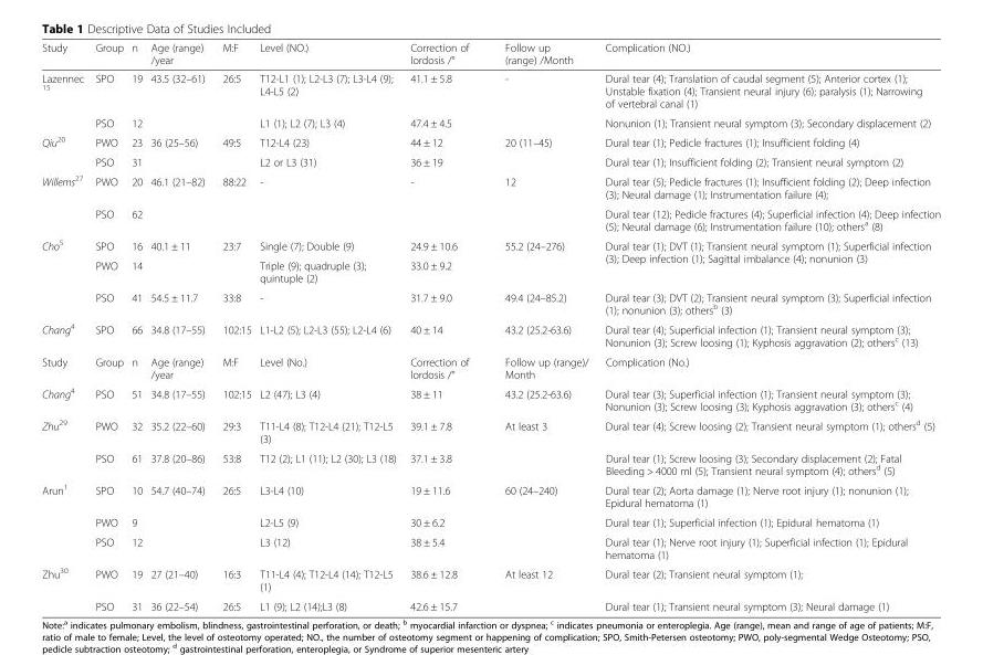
<table><thead><tr><td>Study</td><td>Group</td><td>n</td><td>Age (range) /year</td><td>M:F</td><td>Level (NO.)</td><td>Correction of lordosis /°</td><td>Follow up (range) /Month</td><td>Complication (NO.)</td></tr></thead><tbody><tr><td rowspan="2">Lazennec <sup>15</sup></td><td>SPO</td><td>19</td><td rowspan="2">43.5 (32–61)</td><td rowspan="2">26:5</td><td>T12-L1 (1); L2-L3 (7); L3-L4 (9); L4-L5 (2)</td><td>41.1 ± 5.8</td><td rowspan="2">-</td><td>Dural tear (4); Translation of caudal segment (5); Anterior cortex (1); Unstable fixation (4); Transient neural injury (6); paralysis (1); Narrowing of vertebral canal (1)</td></tr><tr><td>PSO</td><td>12</td><td>L1 (1); L2 (7); L3 (4)</td><td>47.4 ± 4.5</td><td>Nonunion (1); Transient neural symptom (3); Secondary displacement (2)</td></tr><tr><td rowspan="2">Qiu<sup>20</sup></td><td>PWO</td><td>23</td><td rowspan="2">36 (25–56)</td><td rowspan="2">49:5</td><td>T12-L4 (23)</td><td>44 ± 12</td><td rowspan="2">20 (11–45)</td><td>Dural tear (1); Pedicle fractures (1); Insufficient folding (4)</td></tr><tr><td>PSO</td><td>31</td><td>L2 or L3 (31)</td><td>36 ± 19</td><td>Dural tear (1); Insufficient folding (2); Transient neural symptom (2)</td></tr><tr><td rowspan="2">Willems<sup>27</sup></td><td>PWO</td><td>20</td><td rowspan="2">46.1 (21–82)</td><td rowspan="2">88:22</td><td rowspan="2">-</td><td rowspan="2">-</td><td rowspan="2">12</td><td>Dural tear (5); Pedicle fractures (1); Insufficient folding (2); Deep infection (3); Neural damage (1); Instrumentation failure (4);</td></tr><tr><td>PSO</td><td>62</td><td>Dural tear (12); Pedicle fractures (4); Superficial infection (4); Deep infection (5); Neural damage (6); Instrumentation failure (10); others<sup>a</sup> (8)</td></tr><tr><td rowspan="3">Cho<sup>5</sup></td><td>SPO</td><td>16</td><td rowspan="2">40.1 ± 11</td><td rowspan="2">23:7</td><td>Single (7); Double (9)</td><td>24.9 ± 10.6</td><td rowspan="2">55.2 (24–276)</td><td rowspan="2">Dural tear (1); DVT (1); Transient neural symptom (1); Superficial infection (3); Deep infection (1); Sagittal imbalance (4); nonunion (3)</td></tr><tr><td>PWO</td><td>14</td><td>Triple (9); quadruple (3); quintuple (2)</td><td>33.0 ± 9.2</td></tr><tr><td>PSO</td><td>41</td><td>54.5 ± 11.7</td><td>33:8</td><td>-</td><td>31.7 ± 9.0</td><td>49.4 (24–85.2)</td><td>Dural tear (3); DVT (2); Transient neural symptom (3); Superficial infection (1); nonunion (3); others<sup>b</sup> (3)</td></tr><tr><td>Chang<sup>4</sup></td><td>SPO</td><td>66</td><td>34.8 (17–55)</td><td>102:15</td><td>L1-L2 (5); L2-L3 (55); L2-L4 (6)</td><td>40 ± 14</td><td>43.2 (25.2-63.6)</td><td>Dural tear (4); Superficial infection (1); Transient neural symptom (3); Nonunion (3); Screw loosing (1); Kyphosis aggravation (2); others<sup>c</sup> (13)</td></tr><tr><td>Study</td><td>Group</td><td>n</td><td>Age (range) /year</td><td>M:F</td><td>Level (No.)</td><td>Correction of lordosis /°</td><td>Follow up (range)/ Month</td><td>Complication (No.)</td></tr><tr><td>Chang<sup>4</sup></td><td>PSO</td><td>51</td><td>34.8 (17–55)</td><td>102:15</td><td>L2 (47); L3 (4)</td><td>38 ± 11</td><td>43.2 (25.2-63.6)</td><td>Dural tear (3); Superficial infection (1); Transient neural symptom (3); Nonunion (3); Screw loosing (3); Kyphosis aggravation (3); others<sup>c</sup> (4)</td></tr><tr><td rowspan="2">Zhu<sup>29</sup></td><td>PWO</td><td>32</td><td>35.2 (22–60)</td><td>29:3</td><td>T11-L4 (8); T12-L4 (21); T12-L5 (3)</td><td>39.1 ± 7.8</td><td rowspan="2">At least 3</td><td>Dural tear (4); Screw loosing (2); Transient neural symptom (1); others<sup>d</sup> (5)</td></tr><tr><td>PSO</td><td>61</td><td>37.8 (20–86)</td><td>53:8</td><td>T12 (2); L1 (11); L2 (30); L3 (18)</td><td>37.1 ± 3.8</td><td>Dural tear (1); Screw loosing (3); Secondary displacement (2); Fatal Bleeding &gt; 4000 ml (5); Transient neural symptom (4); others<sup>d</sup> (5)</td></tr><tr><td rowspan="3">Arun<sup>1</sup></td><td>SPO</td><td>10</td><td rowspan="3">54.7 (40–74)</td><td rowspan="3">26:5</td><td>L3-L4 (10)</td><td>19 ± 11.6</td><td rowspan="3">60 (24–240)</td><td>Dural tear (2); Aorta damage (1); Nerve root injury (1); nonunion (1); Epidural hematoma (1)</td></tr><tr><td>PWO</td><td>9</td><td>L2-L5 (9)</td><td>30 ± 6.2</td><td>Dural tear (1); Superficial infection (1); Epidural hematoma (1)</td></tr><tr><td>PSO</td><td>12</td><td>L3 (12)</td><td>38 ± 5.4</td><td>Dural tear (1); Nerve root injury (1); Superficial infection (1); Epidural hematoma (1)</td></tr><tr><td rowspan="2">Zhu<sup>30</sup></td><td>PWO</td><td>19</td><td>27 (21–40)</td><td>16:3</td><td>T11-L4 (4); T12-L4 (14); T12-L5 (1)</td><td>38.6 ± 12.8</td><td rowspan="2">At least 12</td><td>Dural tear (2); Transient neural symptom (1);</td></tr><tr><td>PSO</td><td>31</td><td>36 (22–54)</td><td>26:5</td><td>L1 (9); L2 (14);L3 (8)</td><td>42.6 ± 15.7</td><td>Dural tear (1); Transient neural symptom (3); Neural damage (1)</td></tr></tbody></table>